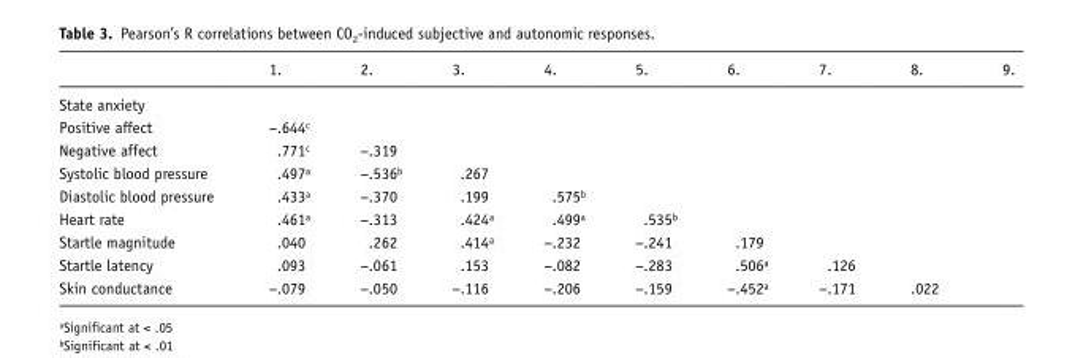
<table><thead><tr><td></td><td>1.</td><td>2.</td><td>3.</td><td>4.</td><td>5.</td><td>6.</td><td>7.</td><td>8.</td><td>9.</td></tr></thead><tbody><tr><td colspan="10">State anxiety</td></tr><tr><td>Positive affect</td><td>−.644<sup>c</sup></td><td></td><td></td><td></td><td></td><td></td><td></td><td></td><td></td></tr><tr><td>Negative affect</td><td>.771<sup>c</sup></td><td>−.319</td><td></td><td></td><td></td><td></td><td></td><td></td><td></td></tr><tr><td>Systolic blood pressure</td><td>.497<sup>a</sup></td><td>−.536<sup>b</sup></td><td>.267</td><td></td><td></td><td></td><td></td><td></td><td></td></tr><tr><td>Diastolic blood pressure</td><td>.433<sup>a</sup></td><td>−.370</td><td>.199</td><td>.575<sup>b</sup></td><td></td><td></td><td></td><td></td><td></td></tr><tr><td>Heart rate</td><td>.461<sup>a</sup></td><td>−.313</td><td>.424<sup>a</sup></td><td>.499<sup>a</sup></td><td>.535<sup>b</sup></td><td></td><td></td><td></td><td></td></tr><tr><td>Startle magnitude</td><td>.040</td><td>.262</td><td>.414<sup>a</sup></td><td>−.232</td><td>−.241</td><td>.179</td><td></td><td></td><td></td></tr><tr><td>Startle latency</td><td>.093</td><td>−.061</td><td>.153</td><td>−.082</td><td>−.283</td><td>.506<sup>a</sup></td><td>.126</td><td></td><td></td></tr><tr><td>Skin conductance</td><td>−.079</td><td>−.050</td><td>−.116</td><td>−.206</td><td>−.159</td><td>−.452<sup>a</sup></td><td>−.171</td><td>.022</td><td></td></tr></tbody></table>